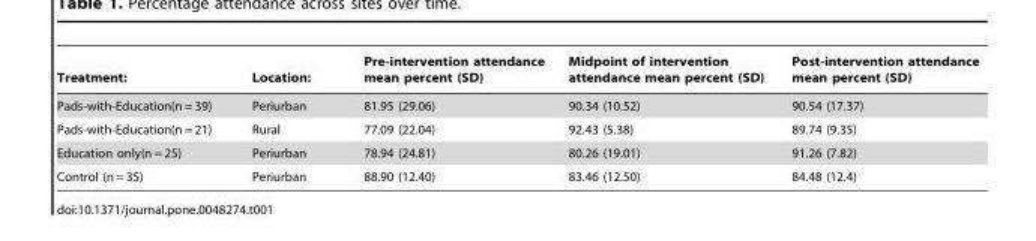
<table><thead><tr><td>Treatment:</td><td>Location:</td><td>Pre-intervention attendance mean percent (SD)</td><td>Midpoint of intervention attendance mean percent (SD)</td><td>Post-intervention attendance mean percent (SD)</td></tr></thead><tbody><tr><td>Pads-with-Education(n = 39)</td><td>Periurban</td><td>81.95 (29.06)</td><td>90.34 (10.52)</td><td>90.54 (17.37)</td></tr><tr><td>Pads-with-Education(n = 21)</td><td>Rural</td><td>77.09 (22.04)</td><td>92.43 (5.38)</td><td>89.74 (9.35)</td></tr><tr><td>Education only(n = 25)</td><td>Periurban</td><td>78.94 (24.81)</td><td>80.26 (19.01)</td><td>91.26 (7.82)</td></tr><tr><td>Control (n = 35)</td><td>Periurban</td><td>88.90 (12.40)</td><td>83.46 (12.50)</td><td>84.48 (12.4)</td></tr></tbody></table>